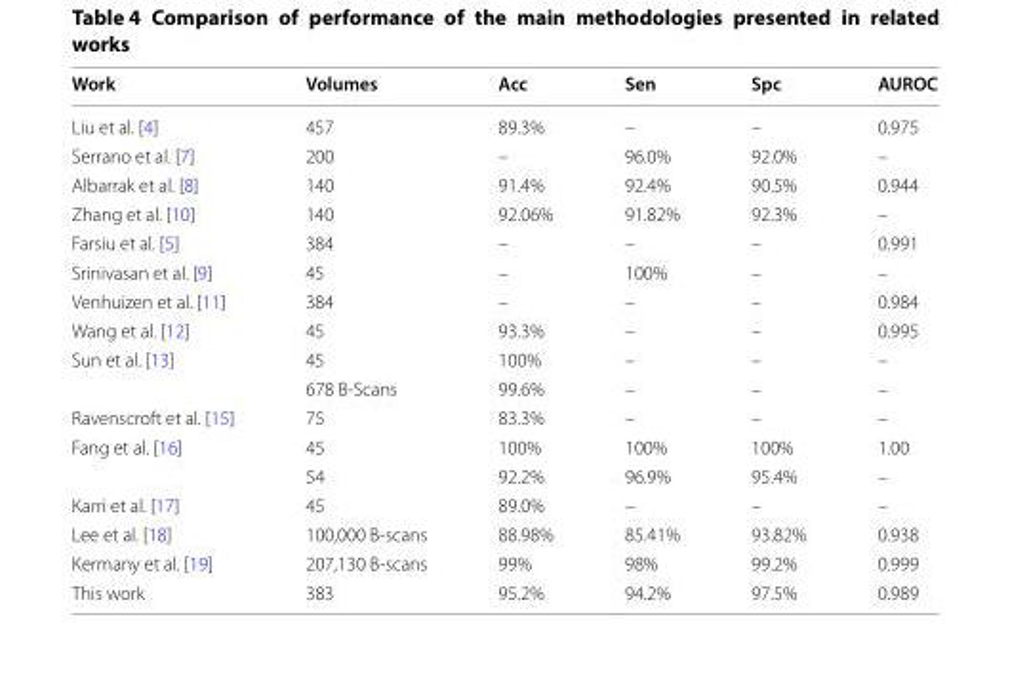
<table><thead><tr><td>Work</td><td>Volumes</td><td>Acc</td><td>Sen</td><td>Spc</td><td>AUROC</td></tr></thead><tbody><tr><td>Liu et al. [4]</td><td>457</td><td>89.3%</td><td>–</td><td>–</td><td>0.975</td></tr><tr><td>Serrano et al. [7]</td><td>200</td><td>–</td><td>96.0%</td><td>92.0%</td><td>–</td></tr><tr><td>Albarrak et al. [8]</td><td>140</td><td>91.4%</td><td>92.4%</td><td>90.5%</td><td>0.944</td></tr><tr><td>Zhang et al. [10]</td><td>140</td><td>92.06%</td><td>91.82%</td><td>92.3%</td><td>–</td></tr><tr><td>Farsiu et al. [5]</td><td>384</td><td>–</td><td>–</td><td>–</td><td>0.991</td></tr><tr><td>Srinivasan et al. [9]</td><td>45</td><td>–</td><td>100%</td><td>–</td><td>–</td></tr><tr><td>Venhuizen et al. [11]</td><td>384</td><td>–</td><td>–</td><td>–</td><td>0.984</td></tr><tr><td>Wang et al. [12]</td><td>45</td><td>93.3%</td><td>–</td><td>–</td><td>0.995</td></tr><tr><td rowspan="2">Sun et al. [13]</td><td>45</td><td>100%</td><td>–</td><td>–</td><td>–</td></tr><tr><td>678 B-Scans</td><td>99.6%</td><td>–</td><td>–</td><td>–</td></tr><tr><td>Ravenscroft et al. [15]</td><td>75</td><td>83.3%</td><td>–</td><td>–</td><td>–</td></tr><tr><td rowspan="2">Fang et al. [16]</td><td>45</td><td>100%</td><td>100%</td><td>100%</td><td>1.00</td></tr><tr><td>54</td><td>92.2%</td><td>96.9%</td><td>95.4%</td><td>–</td></tr><tr><td>Karri et al. [17]</td><td>45</td><td>89.0%</td><td>–</td><td>–</td><td>–</td></tr><tr><td>Lee et al. [18]</td><td>100,000 B-scans</td><td>88.98%</td><td>85.41%</td><td>93.82%</td><td>0.938</td></tr><tr><td>Kermany et al. [19]</td><td>207,130 B-scans</td><td>99%</td><td>98%</td><td>99.2%</td><td>0.999</td></tr><tr><td>This work</td><td>383</td><td>95.2%</td><td>94.2%</td><td>97.5%</td><td>0.989</td></tr></tbody></table>